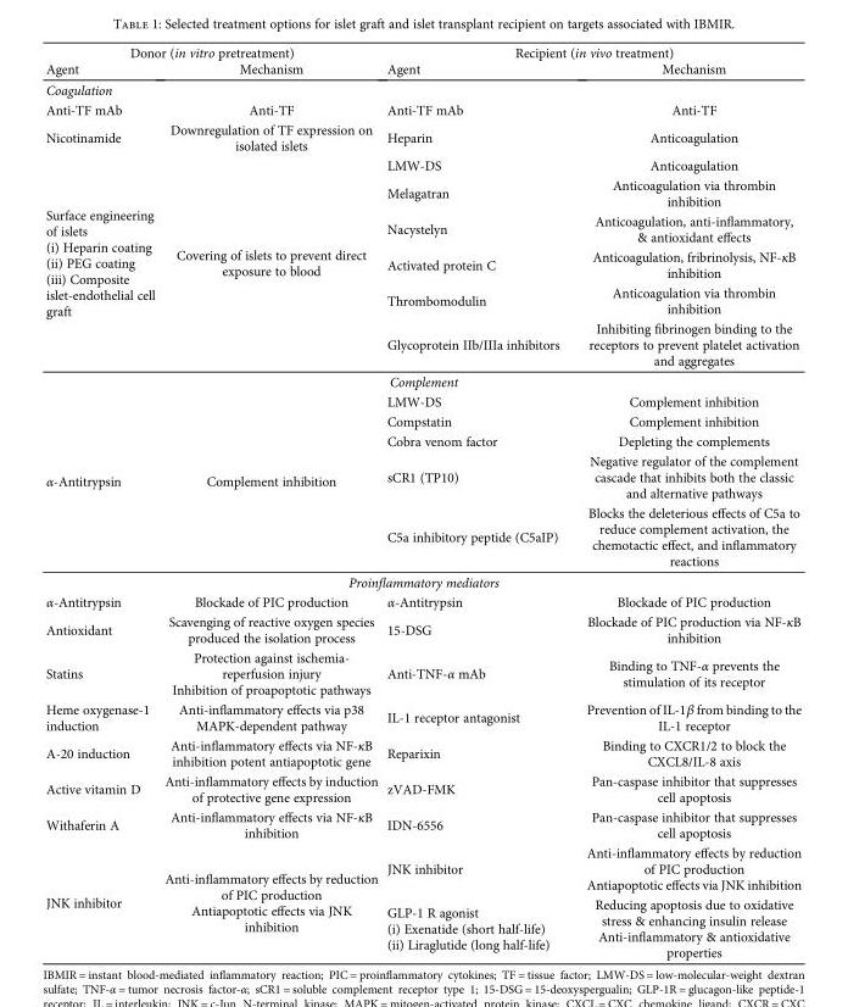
<table><thead><tr><td colspan="2">Donor (in vitro pretreatment)</td><td colspan="2">Recipient (in vivo treatment)</td></tr><tr><td>Agent</td><td>Mechanism</td><td>Agent</td><td>Mechanism</td></tr></thead><tbody><tr><td colspan="4">Coagulation</td></tr><tr><td>Anti-TF mAb</td><td>Anti-TF</td><td>Anti-TF mAb</td><td>Anti-TF</td></tr><tr><td>Nicotinamide</td><td>Downregulation of TF expression on isolated islets</td><td>Heparin</td><td>Anticoagulation</td></tr><tr><td rowspan="6">Surface engineering of islets (i) Heparin coating (ii) PEG coating (iii) Composite islet-endothelial cell graft</td><td rowspan="6">Covering of islets to prevent direct exposure to blood</td><td>LMW-DS</td><td>Anticoagulation</td></tr><tr><td>Melagatran</td><td>Anticoagulation via thrombin inhibition</td></tr><tr><td>Nacystelyn</td><td>Anticoagulation, anti-inflammatory, &amp; antioxidant effects</td></tr><tr><td>Activated protein C</td><td>Anticoagulation, fribrinolysis, NF-κB inhibition</td></tr><tr><td>Thrombomodulin</td><td>Anticoagulation via thrombin inhibition</td></tr><tr><td>Glycoprotein IIb/IIIa inhibitors</td><td>Inhibiting fibrinogen binding to the receptors to prevent platelet activation and aggregates</td></tr><tr><td colspan="4">Complement</td></tr><tr><td rowspan="5">α-Antitrypsin</td><td rowspan="5">Complement inhibition</td><td>LMW-DS</td><td>Complement inhibition</td></tr><tr><td>Compstatin</td><td>Complement inhibition</td></tr><tr><td>Cobra venom factor</td><td>Depleting the complements</td></tr><tr><td>sCR1 (TP10)</td><td>Negative regulator of the complement cascade that inhibits both the classic and alternative pathways</td></tr><tr><td>C5a inhibitory peptide (C5aIP)</td><td>Blocks the deleterious effects of C5a to reduce complement activation, the chemotactic effect, and inflammatory reactions</td></tr><tr><td colspan="4">Proinflammatory mediators</td></tr><tr><td>α-Antitrypsin</td><td>Blockade of PIC production</td><td>α-Antitrypsin</td><td>Blockade of PIC production</td></tr><tr><td>Antioxidant</td><td>Scavenging of reactive oxygen species produced the isolation process</td><td>15-DSG</td><td>Blockade of PIC production via NF-κB inhibition</td></tr><tr><td>Statins</td><td>Protection against ischemia- reperfusion injury Inhibition of proapoptotic pathways</td><td>Anti-TNF-α mAb</td><td>Binding to TNF-α prevents the stimulation of its receptor</td></tr><tr><td>Heme oxygenase-1 induction</td><td>Anti-inflammatory effects via p38 MAPK-dependent pathway</td><td>IL-1 receptor antagonist</td><td>Prevention of IL-1β from binding to the IL-1 receptor</td></tr><tr><td>A-20 induction</td><td>Anti-inflammatory effects via NF-κB inhibition potent antiapoptotic gene</td><td>Reparixin</td><td>Binding to CXCR1/2 to block the CXCL8/IL-8 axis</td></tr><tr><td>Active vitamin D</td><td>Anti-inflammatory effects by induction of protective gene expression</td><td>zVAD-FMK</td><td>Pan-caspase inhibitor that suppresses cell apoptosis</td></tr><tr><td>Withaferin A</td><td>Anti-inflammatory effects via NF-κB inhibition</td><td>IDN-6556</td><td>Pan-caspase inhibitor that suppresses cell apoptosis</td></tr><tr><td rowspan="2">JNK inhibitor</td><td rowspan="2">Anti-inflammatory effects by reduction of PIC production Antiapoptotic effects via JNK inhibition</td><td>JNK inhibitor</td><td>Anti-inflammatory effects by reduction of PIC production Antiapoptotic effects via JNK inhibition</td></tr><tr><td>GLP-1 R agonist (i) Exenatide (short half-life) (ii) Liraglutide (long half-life)</td><td>Reducing apoptosis due to oxidative stress &amp; enhancing insulin release Anti-inflammatory &amp; antioxidative properties</td></tr></tbody></table>